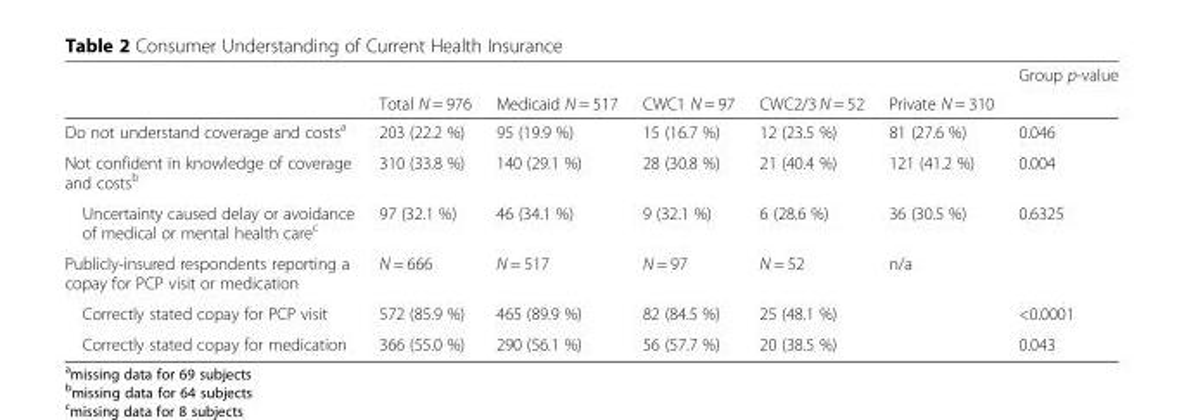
<table><thead><tr><td rowspan="2"></td><td rowspan="2">Total N = 976</td><td rowspan="2">Medicaid N = 517</td><td rowspan="2">CWC1 N = 97</td><td rowspan="2">CWC2/3 N = 52</td><td rowspan="2">Private N = 310</td><td rowspan="2">Group p-value</td></tr><tr></tr></thead><tbody><tr><td>Do not understand coverage and costs<sup>a</sup></td><td>203 (22.2 %)</td><td>95 (19.9 %)</td><td>15 (16.7 %)</td><td>12 (23.5 %)</td><td>81 (27.6 %)</td><td>0.046</td></tr><tr><td>Not confident in knowledge of coverage and costs<sup>b</sup></td><td>310 (33.8 %)</td><td>140 (29.1 %)</td><td>28 (30.8 %)</td><td>21 (40.4 %)</td><td>121 (41.2 %)</td><td>0.004</td></tr><tr><td>Uncertainty caused delay or avoidance of medical or mental health care<sup>c</sup></td><td>97 (32.1 %)</td><td>46 (34.1 %)</td><td>9 (32.1 %)</td><td>6 (28.6 %)</td><td>36 (30.5 %)</td><td>0.6325</td></tr><tr><td>Publicly-insured respondents reporting a copay for PCP visit or medication</td><td>N = 666</td><td>N = 517</td><td>N = 97</td><td>N = 52</td><td>n/a</td><td></td></tr><tr><td>Correctly stated copay for PCP visit</td><td>572 (85.9 %)</td><td>465 (89.9 %)</td><td>82 (84.5 %)</td><td>25 (48.1 %)</td><td></td><td>&lt;0.0001</td></tr><tr><td>Correctly stated copay for medication</td><td>366 (55.0 %)</td><td>290 (56.1 %)</td><td>56 (57.7 %)</td><td>20 (38.5 %)</td><td></td><td>0.043</td></tr></tbody></table>